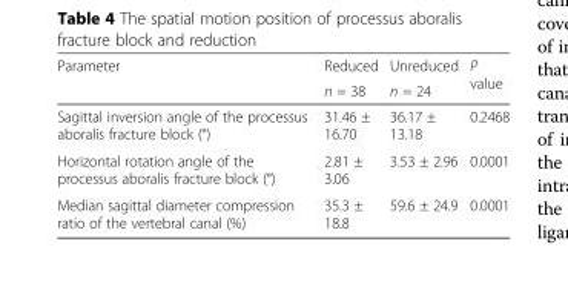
<table><thead><tr><td rowspan="2">Parameter</td><td rowspan="2">Reduced n = 38</td><td rowspan="2">Unreduced n = 24</td><td rowspan="2">P value</td></tr><tr></tr></thead><tbody><tr><td>Sagittal inversion angle of the processus aboralis fracture block (°)</td><td>31.46 ± 16.70</td><td>36.17 ± 13.18</td><td>0.2468</td></tr><tr><td>Horizontal rotation angle of the processus aboralis fracture block (°)</td><td>2.81 ± 3.06</td><td>3.53 ± 2.96</td><td>0.0001</td></tr><tr><td>Median sagittal diameter compression ratio of the vertebral canal (%)</td><td>35.3 ± 18.8</td><td>59.6 ± 24.9</td><td>0.0001</td></tr></tbody></table>